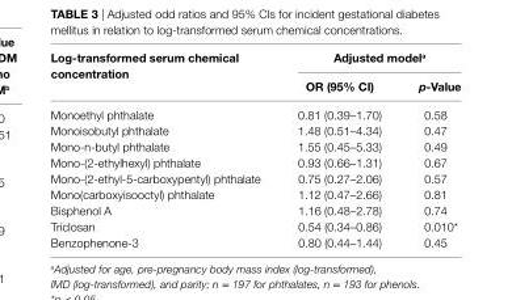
<table><thead><tr><td rowspan="2">log-transformed serum chemical concentration</td><td colspan="2">adjusted model<sup>a</sup></td></tr><tr><td>Or (95% ci)</td><td>p-Value</td></tr></thead><tbody><tr><td>Monoethyl phthalate</td><td>0.81 (0.39–1.70)</td><td>0.58</td></tr><tr><td>Monoisobutyl phthalate</td><td>1.48 (0.51–4.34)</td><td>0.47</td></tr><tr><td>Mono-n-butyl phthalate</td><td>1.55 (0.45–5.33)</td><td>0.49</td></tr><tr><td>Mono-(2-ethylhexyl) phthalate</td><td>0.93 (0.66–1.31)</td><td>0.67</td></tr><tr><td>Mono-(2-ethyl-5-carboxypentyl) phthalate</td><td>0.75 (0.27–2.06)</td><td>0.57</td></tr><tr><td>Mono(carboxyisooctyl) phthalate</td><td>1.12 (0.47–2.66)</td><td>0.81</td></tr><tr><td>Bisphenol A</td><td>1.16 (0.48–2.78)</td><td>0.74</td></tr><tr><td>Triclosan</td><td>0.54 (0.34–0.86)</td><td>0.010*</td></tr><tr><td>Benzophenone-3</td><td>0.80 (0.44–1.44)</td><td>0.45</td></tr></tbody></table>